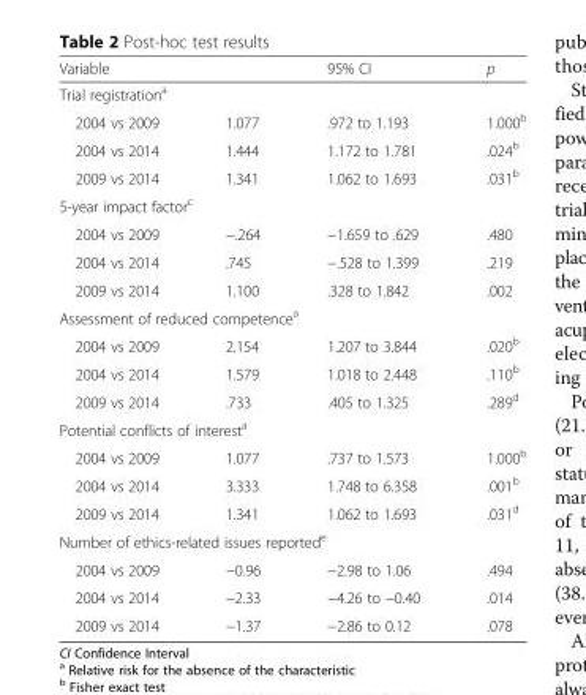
<table><thead><tr><td>Variable</td><td></td><td>95% CI</td><td>p</td></tr></thead><tbody><tr><td colspan="4">Trial registration<sup>a</sup></td></tr><tr><td>2004 vs 2009</td><td>1.077</td><td>.972 to 1.193</td><td>1.000<sup>b</sup></td></tr><tr><td>2004 vs 2014</td><td>1.444</td><td>1.172 to 1.781</td><td>.024<sup>b</sup></td></tr><tr><td>2009 vs 2014</td><td>1.341</td><td>1.062 to 1.693</td><td>.031<sup>b</sup></td></tr><tr><td colspan="4">5-year impact factor<sup>c</sup></td></tr><tr><td>2004 vs 2009</td><td>−.264</td><td>−1.659 to .629</td><td>.480</td></tr><tr><td>2004 vs 2014</td><td>.745</td><td>−.528 to 1.399</td><td>.219</td></tr><tr><td>2009 vs 2014</td><td>1.100</td><td>.328 to 1.842</td><td>.002</td></tr><tr><td colspan="4">Assessment of reduced competence<sup>a</sup></td></tr><tr><td>2004 vs 2009</td><td>2.154</td><td>1.207 to 3.844</td><td>.020<sup>b</sup></td></tr><tr><td>2004 vs 2014</td><td>1.579</td><td>1.018 to 2.448</td><td>.110<sup>b</sup></td></tr><tr><td>2009 vs 2014</td><td>.733</td><td>.405 to 1.325</td><td>.289<sup>d</sup></td></tr><tr><td colspan="4">Potential conflicts of interest<sup>a</sup></td></tr><tr><td>2004 vs 2009</td><td>1.077</td><td>.737 to 1.573</td><td>1.000<sup>b</sup></td></tr><tr><td>2004 vs 2014</td><td>3.333</td><td>1.748 to 6.358</td><td>.001<sup>b</sup></td></tr><tr><td>2009 vs 2014</td><td>1.341</td><td>1.062 to 1.693</td><td>.031<sup>d</sup></td></tr><tr><td colspan="4">Number of ethics-related issues reported<sup>e</sup></td></tr><tr><td>2004 vs 2009</td><td>−0.96</td><td>−2.98 to 1.06</td><td>.494</td></tr><tr><td>2004 vs 2014</td><td>−2.33</td><td>−4.26 to −0.40</td><td>.014</td></tr><tr><td>2009 vs 2014</td><td>−1.37</td><td>−2.86 to 0.12</td><td>.078</td></tr></tbody></table>